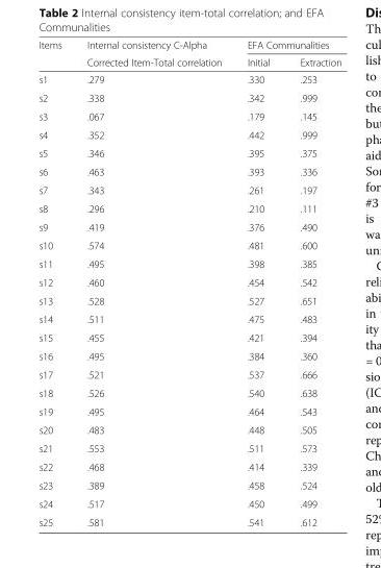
<table><thead><tr><td rowspan="2">Items</td><td rowspan="2">Internal consistency C-Alpha Corrected Item-Total correlation</td><td colspan="2">EFA Communalities</td></tr><tr><td>Initial</td><td>Extraction</td></tr></thead><tbody><tr><td>s1</td><td>.279</td><td>.330</td><td>.253</td></tr><tr><td>s2</td><td>.338</td><td>.342</td><td>.999</td></tr><tr><td>s3</td><td>.067</td><td>.179</td><td>.145</td></tr><tr><td>s4</td><td>.352</td><td>.442</td><td>.999</td></tr><tr><td>s5</td><td>.346</td><td>.395</td><td>.375</td></tr><tr><td>s6</td><td>.463</td><td>.393</td><td>.336</td></tr><tr><td>s7</td><td>.343</td><td>.261</td><td>.197</td></tr><tr><td>s8</td><td>.296</td><td>.210</td><td>.111</td></tr><tr><td>s9</td><td>.419</td><td>.376</td><td>.490</td></tr><tr><td>s10</td><td>.574</td><td>.481</td><td>.600</td></tr><tr><td>s11</td><td>.495</td><td>.398</td><td>.385</td></tr><tr><td>s12</td><td>.460</td><td>.454</td><td>.542</td></tr><tr><td>s13</td><td>.528</td><td>.527</td><td>.651</td></tr><tr><td>s14</td><td>.511</td><td>.475</td><td>.483</td></tr><tr><td>s15</td><td>.455</td><td>.421</td><td>.394</td></tr><tr><td>s16</td><td>.495</td><td>.384</td><td>.360</td></tr><tr><td>s17</td><td>.521</td><td>.537</td><td>.666</td></tr><tr><td>s18</td><td>.526</td><td>.540</td><td>.638</td></tr><tr><td>s19</td><td>.495</td><td>.464</td><td>.543</td></tr><tr><td>s20</td><td>.483</td><td>.448</td><td>.505</td></tr><tr><td>s21</td><td>.553</td><td>.511</td><td>.573</td></tr><tr><td>s22</td><td>.468</td><td>.414</td><td>.339</td></tr><tr><td>s23</td><td>.389</td><td>.458</td><td>.524</td></tr><tr><td>s24</td><td>.517</td><td>.450</td><td>.499</td></tr><tr><td>s25</td><td>.581</td><td>.541</td><td>.612</td></tr></tbody></table>